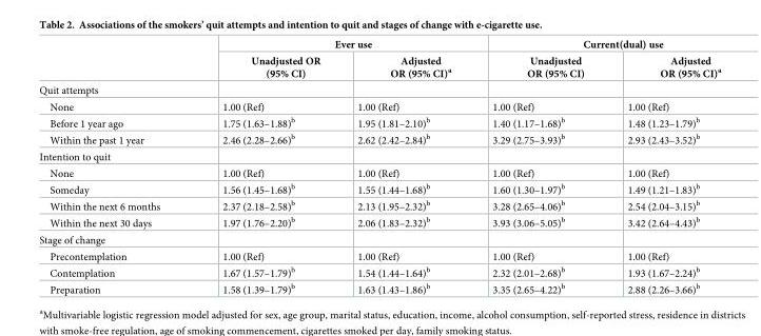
<table><thead><tr><td rowspan="2"></td><td colspan="2">Ever use</td><td colspan="2">Current(dual) use</td></tr><tr><td>Unadjusted OR (95% CI)</td><td>Adjusted OR (95% CI)<sup>a</sup></td><td>Unadjusted OR (95% CI)</td><td>Adjusted OR (95% CI)<sup>a</sup></td></tr></thead><tbody><tr><td colspan="5">Quit attempts</td></tr><tr><td>None</td><td>1.00 (Ref)</td><td>1.00 (Ref)</td><td>1.00 (Ref)</td><td>1.00 (Ref)</td></tr><tr><td>Before 1 year ago</td><td>1.75 (1.63–1.88)<sup>b</sup></td><td>1.95 (1.81–2.10)<sup>b</sup></td><td>1.40 (1.17–1.68)<sup>b</sup></td><td>1.48 (1.23–1.79)<sup>b</sup></td></tr><tr><td>Within the past 1 year</td><td>2.46 (2.28–2.66)<sup>b</sup></td><td>2.62 (2.42–2.84)<sup>b</sup></td><td>3.29 (2.75–3.93)<sup>b</sup></td><td>2.93 (2.43–3.52)<sup>b</sup></td></tr><tr><td colspan="5">Intention to quit</td></tr><tr><td>None</td><td>1.00 (Ref)</td><td>1.00 (Ref)</td><td>1.00 (Ref)</td><td>1.00 (Ref)</td></tr><tr><td>Someday</td><td>1.56 (1.45–1.68)<sup>b</sup></td><td>1.55 (1.44–1.68)<sup>b</sup></td><td>1.60 (1.30–1.97)<sup>b</sup></td><td>1.49 (1.21–1.83)<sup>b</sup></td></tr><tr><td>Within the next 6 months</td><td>2.37 (2.18–2.58)<sup>b</sup></td><td>2.13 (1.95–2.32)<sup>b</sup></td><td>3.28 (2.65–4.06)<sup>b</sup></td><td>2.54 (2.04–3.15)<sup>b</sup></td></tr><tr><td>Within the next 30 days</td><td>1.97 (1.76–2.20)<sup>b</sup></td><td>2.06 (1.83–2.32)<sup>b</sup></td><td>3.93 (3.06–5.05)<sup>b</sup></td><td>3.42 (2.64–4.43)<sup>b</sup></td></tr><tr><td colspan="5">Stage of change</td></tr><tr><td>Precontemplation</td><td>1.00 (Ref)</td><td>1.00 (Ref)</td><td>1.00 (Ref)</td><td>1.00 (Ref)</td></tr><tr><td>Contemplation</td><td>1.67 (1.57–1.79)<sup>b</sup></td><td>1.54 (1.44–1.64)<sup>b</sup></td><td>2.32 (2.01–2.68)<sup>b</sup></td><td>1.93 (1.67–2.24)<sup>b</sup></td></tr><tr><td>Preparation</td><td>1.58 (1.39–1.79)<sup>b</sup></td><td>1.63 (1.43–1.86)<sup>b</sup></td><td>3.35 (2.65–4.22)<sup>b</sup></td><td>2.88 (2.26–3.66)<sup>b</sup></td></tr></tbody></table>